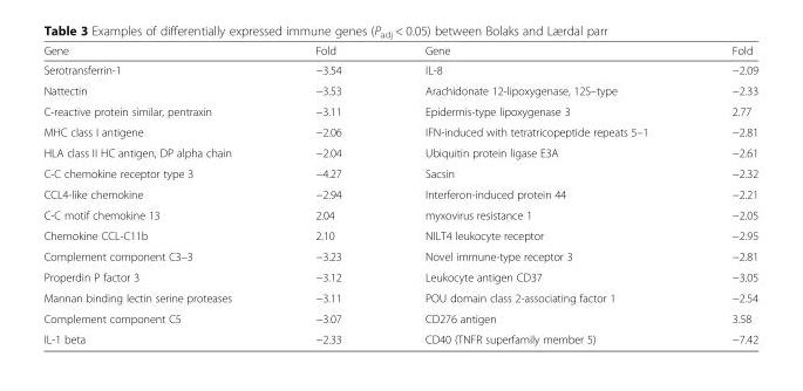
<table><thead><tr><td>Gene</td><td>Fold</td><td>Gene</td><td>Fold</td></tr></thead><tbody><tr><td>Serotransferrin-1</td><td>−3.54</td><td>IL-8</td><td>−2.09</td></tr><tr><td>Nattectin</td><td>−3.53</td><td>Arachidonate 12-lipoxygenase, 12S–type</td><td>−2.33</td></tr><tr><td>C-reactive protein similar, pentraxin</td><td>−3.11</td><td>Epidermis-type lipoxygenase 3</td><td>2.77</td></tr><tr><td>MHC class I antigene</td><td>−2.06</td><td>IFN-induced with tetratricopeptide repeats 5–1</td><td>−2.81</td></tr><tr><td>HLA class II HC antigen, DP alpha chain</td><td>−2.04</td><td>Ubiquitin protein ligase E3A</td><td>−2.61</td></tr><tr><td>C-C chemokine receptor type 3</td><td>−4.27</td><td>Sacsin</td><td>−2.32</td></tr><tr><td>CCL4-like chemokine</td><td>−2.94</td><td>Interferon-induced protein 44</td><td>−2.21</td></tr><tr><td>C-C motif chemokine 13</td><td>2.04</td><td>myxovirus resistance 1</td><td>−2.05</td></tr><tr><td>Chemokine CCL-C11b</td><td>2.10</td><td>NILT4 leukocyte receptor</td><td>−2.95</td></tr><tr><td>Complement component C3–3</td><td>−3.23</td><td>Novel immune-type receptor 3</td><td>−2.81</td></tr><tr><td>Properdin P factor 3</td><td>−3.12</td><td>Leukocyte antigen CD37</td><td>−3.05</td></tr><tr><td>Mannan binding lectin serine proteases</td><td>−3.11</td><td>POU domain class 2-associating factor 1</td><td>−2.54</td></tr><tr><td>Complement component C5</td><td>−3.07</td><td>CD276 antigen</td><td>3.58</td></tr><tr><td>IL-1 beta</td><td>−2.33</td><td>CD40 (TNFR superfamily member 5)</td><td>−7.42</td></tr></tbody></table>